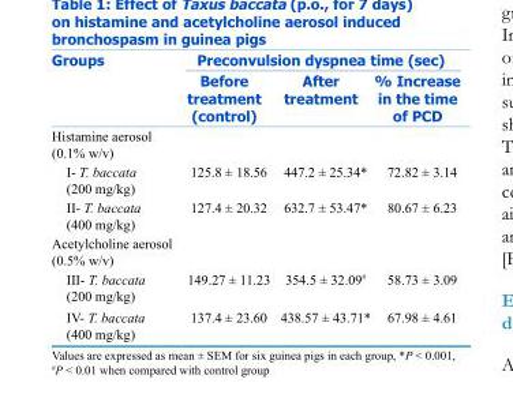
<table><thead><tr><td rowspan="2">Groups</td><td colspan="3">Preconvulsion dyspnea time (sec)</td></tr><tr><td>Before treatment (control)</td><td>After treatment</td><td>% Increase in the time of PCD</td></tr></thead><tbody><tr><td colspan="4">Histamine aerosol (0.1% w/v)</td></tr><tr><td>I- T. baccata (200 mg/kg)</td><td>125.8 ± 18.56</td><td>447.2 ± 25.34*</td><td>72.82 ± 3.14</td></tr><tr><td>II- T. baccata (400 mg/kg)</td><td>127.4 ± 20.32</td><td>632.7 ± 53.47*</td><td>80.67 ± 6.23</td></tr><tr><td colspan="4">Acetylcholine aerosol (0.5% w/v)</td></tr><tr><td>III- T. baccata (200 mg/kg)</td><td>149.27 ± 11.23</td><td>354.5 ± 32.09#</td><td>58.73 ± 3.09</td></tr><tr><td>IV- T. baccata (400 mg/kg)</td><td>137.4 ± 23.60</td><td>438.57 ± 43.71*</td><td>67.98 ± 4.61</td></tr></tbody></table>